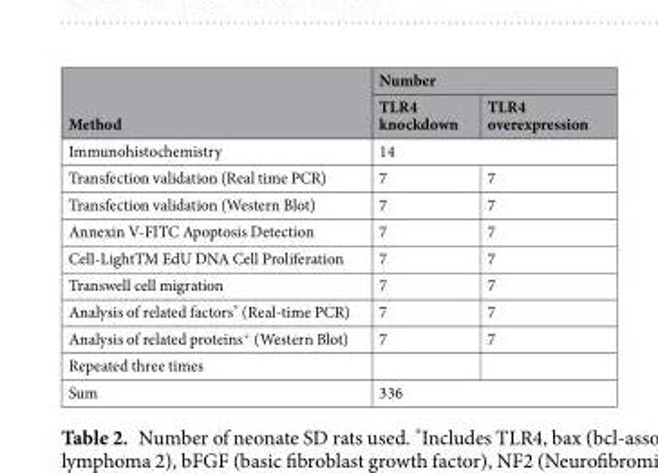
<table><thead><tr><td rowspan="2">Method</td><td colspan="2">Number</td></tr><tr><td>TLR4 knockdown</td><td>TLR4 overexpression</td></tr></thead><tbody><tr><td>Immunohistochemistry</td><td colspan="2">14</td></tr><tr><td>Transfection validation (Real time PCR)</td><td>7</td><td>7</td></tr><tr><td>Transfection validation (Western Blot)</td><td>7</td><td>7</td></tr><tr><td>Annexin V-FITC Apoptosis Detection</td><td>7</td><td>7</td></tr><tr><td>Cell-LightTM EdU DNA Cell Proliferation</td><td>7</td><td>7</td></tr><tr><td>Transwell cell migration</td><td>7</td><td>7</td></tr><tr><td>Analysis of related factors* (Real-time PCR)</td><td>7</td><td>7</td></tr><tr><td>Analysis of related proteins<sup>+</sup> (Western Blot)</td><td>7</td><td>7</td></tr><tr><td colspan="3">Repeated three times</td></tr><tr><td>Sum</td><td colspan="2">336</td></tr></tbody></table>